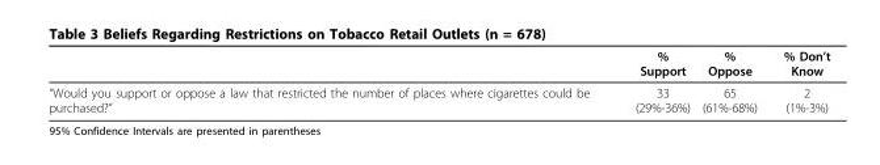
<table><thead><tr><td></td><td>% Support</td><td>% Oppose</td><td>% Don’t Know</td></tr></thead><tbody><tr><td>“Would you support or oppose a law that restricted the number of places where cigarettes could be purchased?”</td><td>33 (29%-36%)</td><td>65 (61%-68%)</td><td>2 (1%-3%)</td></tr></tbody></table>